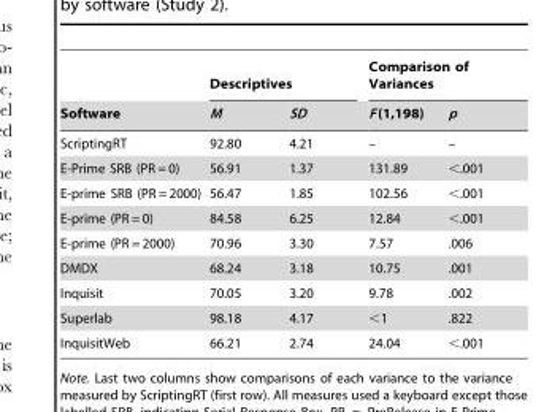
<table><thead><tr><td rowspan="2">Software</td><td colspan="2">Descriptives</td><td colspan="2">Comparison of Variances</td></tr><tr><td>M</td><td>SD</td><td>F(1,198)</td><td>p</td></tr></thead><tbody><tr><td>ScriptingRT</td><td>92.80</td><td>4.21</td><td>–</td><td>–</td></tr><tr><td>E-Prime SRB (PR = 0)</td><td>56.91</td><td>1.37</td><td>131.89</td><td>&lt;.001</td></tr><tr><td>E-prime SRB (PR = 2000)</td><td>56.47</td><td>1.85</td><td>102.56</td><td>&lt;.001</td></tr><tr><td>E-prime (PR = 0)</td><td>84.58</td><td>6.25</td><td>12.84</td><td>&lt;.001</td></tr><tr><td>E-prime (PR = 2000)</td><td>70.96</td><td>3.30</td><td>7.57</td><td>.006</td></tr><tr><td>DMDX</td><td>68.24</td><td>3.18</td><td>10.75</td><td>.001</td></tr><tr><td>Inquisit</td><td>70.05</td><td>3.20</td><td>9.78</td><td>.002</td></tr><tr><td>Superlab</td><td>98.18</td><td>4.17</td><td>&lt;1</td><td>.822</td></tr><tr><td>InquisitWeb</td><td>66.21</td><td>2.74</td><td>24.04</td><td>&lt;.001</td></tr></tbody></table>